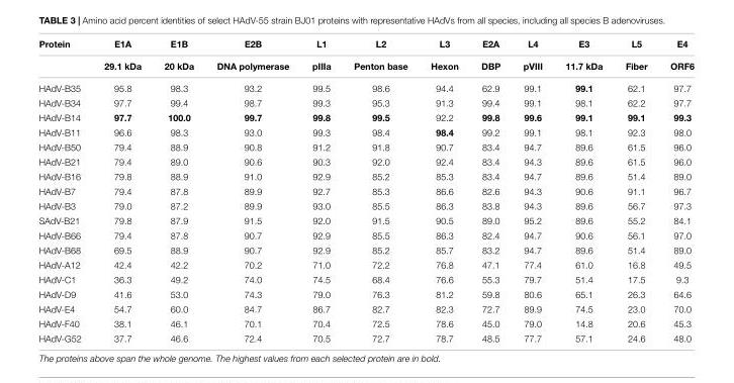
<table><thead><tr><td>Protein</td><td>E1A</td><td>E1B</td><td>E2B</td><td>L1</td><td>L2</td><td>L3</td><td>E2A</td><td>L4</td><td>E3</td><td>L5</td><td>E4</td></tr></thead><tbody><tr><td></td><td>29.1 kDa</td><td>20 kDa</td><td>DNA polymerase</td><td>pIIIa</td><td>Penton base</td><td>Hexon</td><td>DBP</td><td>pVIII</td><td>11.7 kDa</td><td>Fiber</td><td>ORF6</td></tr><tr><td>HAdV-B35</td><td>95.8</td><td>98.3</td><td>93.2</td><td>99.5</td><td>98.6</td><td>94.4</td><td>62.9</td><td>99.1</td><td>99.1</td><td>62.1</td><td>97.7</td></tr><tr><td>HAdV-B34</td><td>97.7</td><td>99.4</td><td>98.7</td><td>99.3</td><td>95.3</td><td>91.3</td><td>99.4</td><td>99.1</td><td>98.1</td><td>62.2</td><td>97.7</td></tr><tr><td>HAdV-B14</td><td>97.7</td><td>100.0</td><td>99.7</td><td>99.8</td><td>99.5</td><td>92.2</td><td>99.8</td><td>99.6</td><td>99.1</td><td>99.1</td><td>99.3</td></tr><tr><td>HAdV-B11</td><td>96.6</td><td>98.3</td><td>93.0</td><td>99.3</td><td>98.4</td><td>98.4</td><td>99.2</td><td>99.1</td><td>98.1</td><td>92.3</td><td>98.0</td></tr><tr><td>HAdV-B50</td><td>79.4</td><td>88.9</td><td>90.8</td><td>91.2</td><td>91.8</td><td>90.7</td><td>83.4</td><td>94.7</td><td>89.6</td><td>61.5</td><td>96.0</td></tr><tr><td>HAdV-B21</td><td>79.4</td><td>89.0</td><td>90.6</td><td>90.3</td><td>92.0</td><td>92.4</td><td>83.4</td><td>94.3</td><td>89.6</td><td>61.5</td><td>96.0</td></tr><tr><td>HAdV-B16</td><td>79.8</td><td>88.9</td><td>91.0</td><td>92.9</td><td>85.2</td><td>85.3</td><td>83.4</td><td>94.7</td><td>89.6</td><td>51.4</td><td>89.0</td></tr><tr><td>HAdV-B7</td><td>79.4</td><td>87.8</td><td>89.9</td><td>92.7</td><td>85.3</td><td>86.6</td><td>82.6</td><td>94.3</td><td>90.6</td><td>91.1</td><td>96.7</td></tr><tr><td>HAdV-B3</td><td>79.0</td><td>87.2</td><td>89.9</td><td>93.0</td><td>85.5</td><td>86.3</td><td>83.8</td><td>94.3</td><td>89.6</td><td>56.7</td><td>97.3</td></tr><tr><td>SAdV-B21</td><td>79.8</td><td>87.9</td><td>91.5</td><td>92.0</td><td>91.5</td><td>90.5</td><td>89.0</td><td>95.2</td><td>89.6</td><td>55.2</td><td>84.1</td></tr><tr><td>HAdV-B66</td><td>79.4</td><td>87.8</td><td>90.7</td><td>92.9</td><td>85.5</td><td>86.3</td><td>82.4</td><td>94.7</td><td>90.6</td><td>56.1</td><td>97.0</td></tr><tr><td>HAdV-B68</td><td>69.5</td><td>88.9</td><td>90.7</td><td>92.9</td><td>85.2</td><td>85.7</td><td>83.2</td><td>94.7</td><td>89.6</td><td>51.4</td><td>89.0</td></tr><tr><td>HAdV-A12</td><td>42.4</td><td>42.2</td><td>70.2</td><td>71.0</td><td>72.2</td><td>76.8</td><td>47.1</td><td>77.4</td><td>61.0</td><td>16.8</td><td>49.5</td></tr><tr><td>HAdV-C1</td><td>36.3</td><td>49.2</td><td>74.0</td><td>74.5</td><td>68.4</td><td>76.6</td><td>55.3</td><td>79.7</td><td>51.4</td><td>17.5</td><td>9.3</td></tr><tr><td>HAdV-D9</td><td>41.6</td><td>53.0</td><td>74.3</td><td>79.0</td><td>76.3</td><td>81.2</td><td>59.8</td><td>80.6</td><td>65.1</td><td>26.3</td><td>64.6</td></tr><tr><td>HAdV-E4</td><td>54.7</td><td>60.0</td><td>84.7</td><td>86.7</td><td>82.7</td><td>82.3</td><td>72.7</td><td>89.9</td><td>74.5</td><td>23.0</td><td>70.0</td></tr><tr><td>HAdV-F40</td><td>38.1</td><td>46.1</td><td>70.1</td><td>70.4</td><td>72.5</td><td>78.6</td><td>45.0</td><td>79.0</td><td>14.8</td><td>20.6</td><td>45.3</td></tr><tr><td>HAdV-G52</td><td>37.7</td><td>46.6</td><td>72.4</td><td>70.5</td><td>72.7</td><td>78.7</td><td>48.5</td><td>77.7</td><td>57.1</td><td>24.6</td><td>48.0</td></tr></tbody></table>